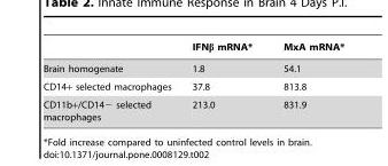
<table><thead><tr><td></td><td>IFNβ mRNA*</td><td>MxA mRNA*</td></tr></thead><tbody><tr><td>Brain homogenate</td><td>1.8</td><td>54.1</td></tr><tr><td>CD14+ selected macrophages</td><td>37.8</td><td>813.8</td></tr><tr><td>CD11b+/CD14− selected macrophages</td><td>213.0</td><td>831.9</td></tr></tbody></table>